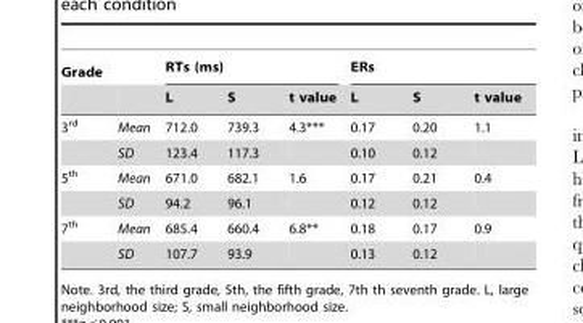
<table><thead><tr><td rowspan="2">Grade</td><td rowspan="2"></td><td colspan="3">RTs (ms)</td><td colspan="3">ERs</td></tr><tr><td>L</td><td>S</td><td>t value</td><td>L</td><td>S</td><td>t value</td></tr></thead><tbody><tr><td rowspan="2">3<sup>rd</sup></td><td>Mean</td><td>712.0</td><td>739.3</td><td>4.3***</td><td>0.17</td><td>0.20</td><td>1.1</td></tr><tr><td>SD</td><td>123.4</td><td>117.3</td><td></td><td>0.10</td><td>0.12</td><td></td></tr><tr><td rowspan="2">5<sup>th</sup></td><td>Mean</td><td>671.0</td><td>682.1</td><td>1.6</td><td>0.17</td><td>0.21</td><td>0.4</td></tr><tr><td>SD</td><td>94.2</td><td>96.1</td><td></td><td>0.12</td><td>0.12</td><td></td></tr><tr><td rowspan="2">7<sup>th</sup></td><td>Mean</td><td>685.4</td><td>660.4</td><td>6.8**</td><td>0.18</td><td>0.17</td><td>0.9</td></tr><tr><td>SD</td><td>107.7</td><td>93.9</td><td></td><td>0.13</td><td>0.12</td><td></td></tr></tbody></table>